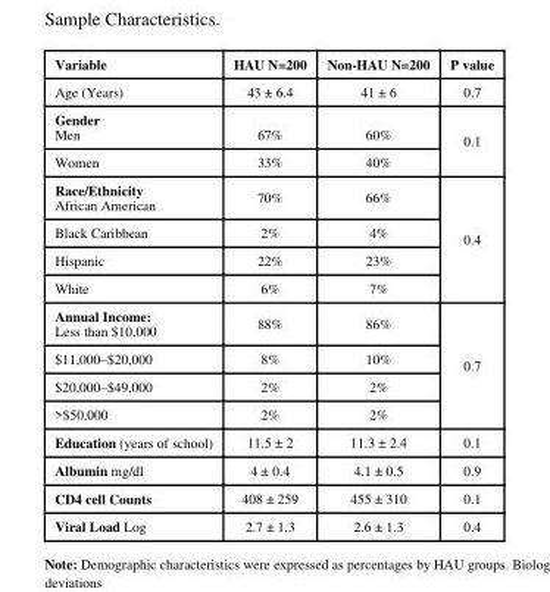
<table><thead><tr><td>Variable</td><td>HAU N=200</td><td>Non-HAU N=200</td><td>P value</td></tr></thead><tbody><tr><td>Age (Years)</td><td>43 ± 6.4</td><td>41 ± 6</td><td>0.7</td></tr><tr><td>Gender Men</td><td>67%</td><td>60%</td><td rowspan="2">0.1</td></tr><tr><td>Women</td><td>33%</td><td>40%</td></tr><tr><td>Race/Ethnicity African American</td><td>70%</td><td>66%</td><td rowspan="4">0.4</td></tr><tr><td>Black Caribbean</td><td>2%</td><td>4%</td></tr><tr><td>Hispanic</td><td>22%</td><td>23%</td></tr><tr><td>White</td><td>6%</td><td>7%</td></tr><tr><td>Annual Income: Less than $10,000</td><td>88%</td><td>86%</td><td rowspan="4">0.7</td></tr><tr><td>$11,000–$20,000</td><td>8%</td><td>10%</td></tr><tr><td>$20,000–$49,000</td><td>2%</td><td>2%</td></tr><tr><td>&gt;$50,000</td><td>2%</td><td>2%</td></tr><tr><td>Education (years of school)</td><td>11.5 ± 2</td><td>11.3 ± 2.4</td><td>0.1</td></tr><tr><td>Albumin mg/dl</td><td>4 ± 0.4</td><td>4.1 ± 0.5</td><td>0.9</td></tr><tr><td>CD4 cell Counts</td><td>408 ± 259</td><td>455 ± 310</td><td>0.1</td></tr><tr><td>Viral Load Log</td><td>2.7 ± 1.3</td><td>2.6 ± 1.3</td><td>0.4</td></tr></tbody></table>